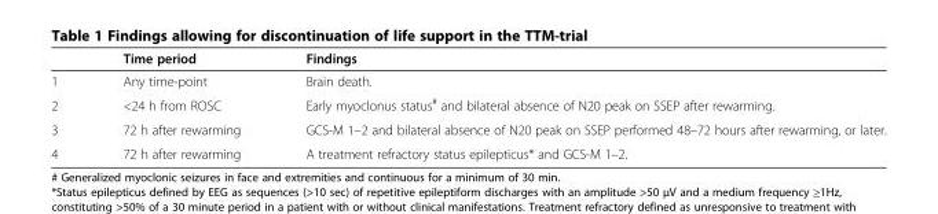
<table><thead><tr><td></td><td>Time period</td><td>Findings</td></tr></thead><tbody><tr><td>1</td><td>Any time-point</td><td>Brain death.</td></tr><tr><td>2</td><td>&lt;24 h from ROSC</td><td>Early myoclonus status<sup>#</sup> and bilateral absence of N20 peak on SSEP after rewarming.</td></tr><tr><td>3</td><td>72 h after rewarming</td><td>GCS-M 1–2 and bilateral absence of N20 peak on SSEP performed 48–72 hours after rewarming, or later.</td></tr><tr><td>4</td><td>72 h after rewarming</td><td>A treatment refractory status epilepticus* and GCS-M 1–2.</td></tr></tbody></table>